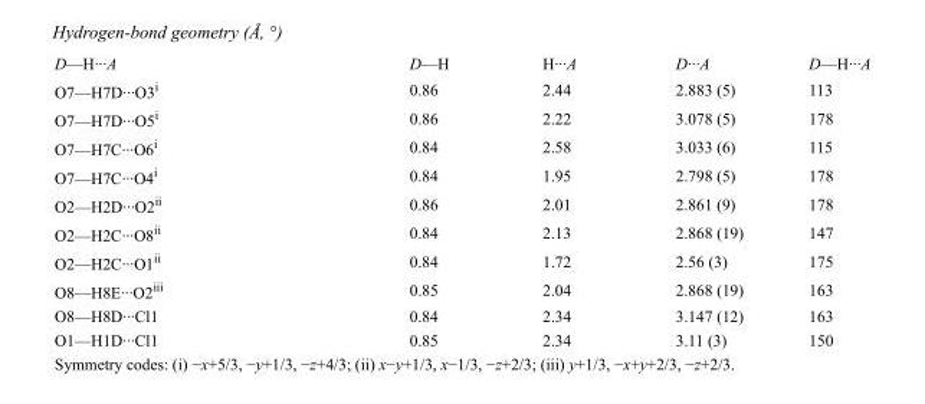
<table><tbody><tr><td>D—H···A</td><td>D—H</td><td>H···A</td><td>D···A</td><td>D—H···A</td></tr><tr><td>O7—H7D···O3<sup>i</sup></td><td>0.86</td><td>2.44</td><td>2.883 (5)</td><td>113</td></tr><tr><td>O7—H7D···O5<sup>i</sup></td><td>0.86</td><td>2.22</td><td>3.078 (5)</td><td>178</td></tr><tr><td>O7—H7C···O6<sup>i</sup></td><td>0.84</td><td>2.58</td><td>3.033 (6)</td><td>115</td></tr><tr><td>O7—H7C···O4<sup>i</sup></td><td>0.84</td><td>1.95</td><td>2.798 (5)</td><td>178</td></tr><tr><td>O2—H2D···O2<sup>ii</sup></td><td>0.86</td><td>2.01</td><td>2.861 (9)</td><td>178</td></tr><tr><td>O2—H2C···O8<sup>ii</sup></td><td>0.84</td><td>2.13</td><td>2.868 (19)</td><td>147</td></tr><tr><td>O2—H2C···O1<sup>ii</sup></td><td>0.84</td><td>1.72</td><td>2.56 (3)</td><td>175</td></tr><tr><td>O8—H8E···O2<sup>iii</sup></td><td>0.85</td><td>2.04</td><td>2.868 (19)</td><td>163</td></tr><tr><td>O8—H8D···Cl1</td><td>0.84</td><td>2.34</td><td>3.147 (12)</td><td>163</td></tr><tr><td>O1—H1D···Cl1</td><td>0.85</td><td>2.34</td><td>3.11 (3)</td><td>150</td></tr></tbody></table>